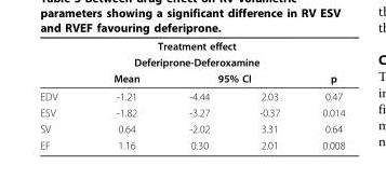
<table><thead><tr><td rowspan="4">EDV</td><td rowspan="2" colspan="3">Treatment effect Deferiprone-Deferoxamine</td><td rowspan="4">p 0.47</td></tr><tr></tr><tr><td rowspan="2">Mean -1.21</td><td colspan="2">95% CI</td></tr><tr><td>-4.44</td><td>2.03</td></tr></thead><tbody><tr><td>ESV</td><td>-1.82</td><td>-3.27</td><td>-0.37</td><td>0.014</td></tr><tr><td>SV</td><td>0.64</td><td>-2.02</td><td>3.31</td><td>0.64</td></tr><tr><td>EF</td><td>1.16</td><td>0.30</td><td>2.01</td><td>0.008</td></tr></tbody></table>